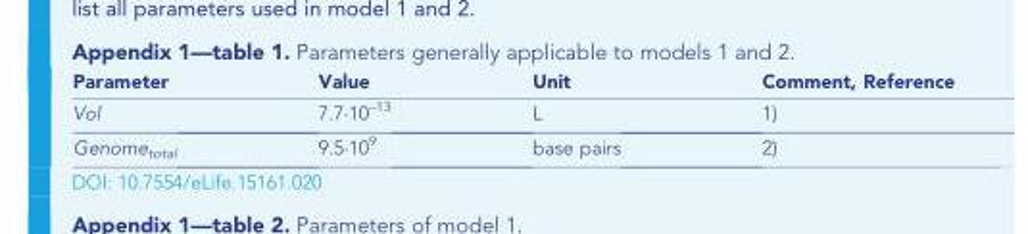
<table><thead><tr><td>Parameter</td><td>Value</td><td>Unit</td><td>Comment, Reference</td></tr></thead><tbody><tr><td>Vol</td><td>7.7·10<sup>–13</sup></td><td>L</td><td>1)</td></tr><tr><td>Genome<sub>total</sub></td><td>9.5·10<sup>9</sup></td><td>base pairs</td><td>2)</td></tr></tbody></table>